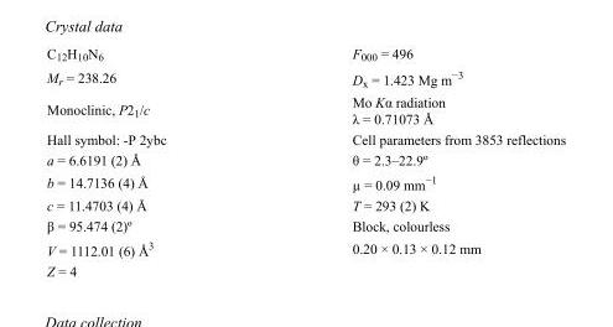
<table><tbody><tr><td>C<sub>12</sub>H<sub>10</sub>N<sub>6</sub></td><td>F<sub>000</sub> = 496</td></tr><tr><td>M<sub>r</sub> = 238.26</td><td>D<sub>x</sub> = 1.423 Mg m<sup>−3</sup></td></tr><tr><td>Monoclinic, P2<sub>1</sub>/c</td><td>Mo Kα radiation λ = 0.71073 Å</td></tr><tr><td>Hall symbol: -P 2ybc</td><td>Cell parameters from 3853 reflections</td></tr><tr><td>a = 6.6191 (2) Å</td><td>θ = 2.3–22.9º</td></tr><tr><td>b = 14.7136 (4) Å</td><td>µ = 0.09 mm<sup>−1</sup></td></tr><tr><td>c = 11.4703 (4) Å</td><td>T = 293 (2) K</td></tr><tr><td>β = 95.474 (2)º</td><td>Block, colourless</td></tr><tr><td>V = 1112.01 (6) Å<sup>3</sup></td><td>0.20 × 0.13 × 0.12 mm</td></tr><tr><td>Z = 4</td><td></td></tr></tbody></table>